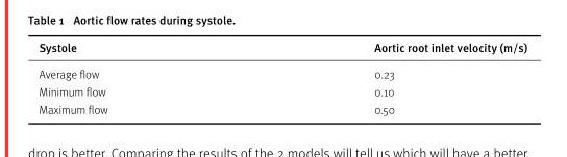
<table><thead><tr><td>Systole</td><td>Aortic root inlet velocity (m/s)</td></tr></thead><tbody><tr><td>Average flow</td><td>0.23</td></tr><tr><td>Minimum flow</td><td>0.10</td></tr><tr><td>Maximum flow</td><td>0.50</td></tr></tbody></table>